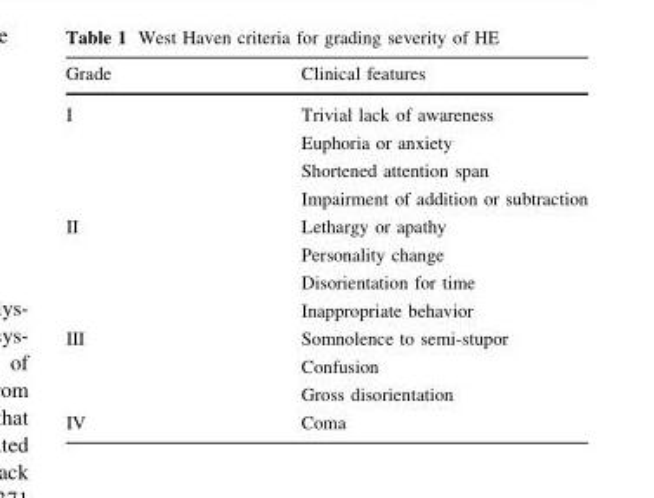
<table><thead><tr><td>Grade</td><td>Clinical features</td></tr></thead><tbody><tr><td rowspan="4">I</td><td>Trivial lack of awareness</td></tr><tr><td>Euphoria or anxiety</td></tr><tr><td>Shortened attention span</td></tr><tr><td>Impairment of addition or subtraction</td></tr><tr><td rowspan="4">II</td><td>Lethargy or apathy</td></tr><tr><td>Personality change</td></tr><tr><td>Disorientation for time</td></tr><tr><td>Inappropriate behavior</td></tr><tr><td rowspan="3">III</td><td>Somnolence to semi-stupor</td></tr><tr><td>Confusion</td></tr><tr><td>Gross disorientation</td></tr><tr><td>IV</td><td>Coma</td></tr></tbody></table>